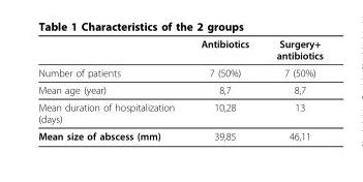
<table><thead><tr><td></td><td>Antibiotics</td><td>Surgery+ antibiotics</td></tr></thead><tbody><tr><td>Number of patients</td><td>7 (50%)</td><td>7 (50%)</td></tr><tr><td>Mean age (year)</td><td>8,7</td><td>8,7</td></tr><tr><td>Mean duration of hospitalization (days)</td><td>10,28</td><td>13</td></tr><tr><td>Mean size of abscess (mm)</td><td>39,85</td><td>46,11</td></tr></tbody></table>